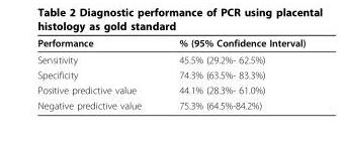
<table><thead><tr><td>Performance</td><td>% (95% Confidence Interval)</td></tr></thead><tbody><tr><td>Sensitivity</td><td>45.5% (29.2%- 62.5%)</td></tr><tr><td>Specificity</td><td>74.3% (63.5%- 83.3%)</td></tr><tr><td>Positive predictive value</td><td>44.1% (28.3%- 61.0%)</td></tr><tr><td>Negative predictive value</td><td>75.3% (64.5%-84.2%)</td></tr></tbody></table>